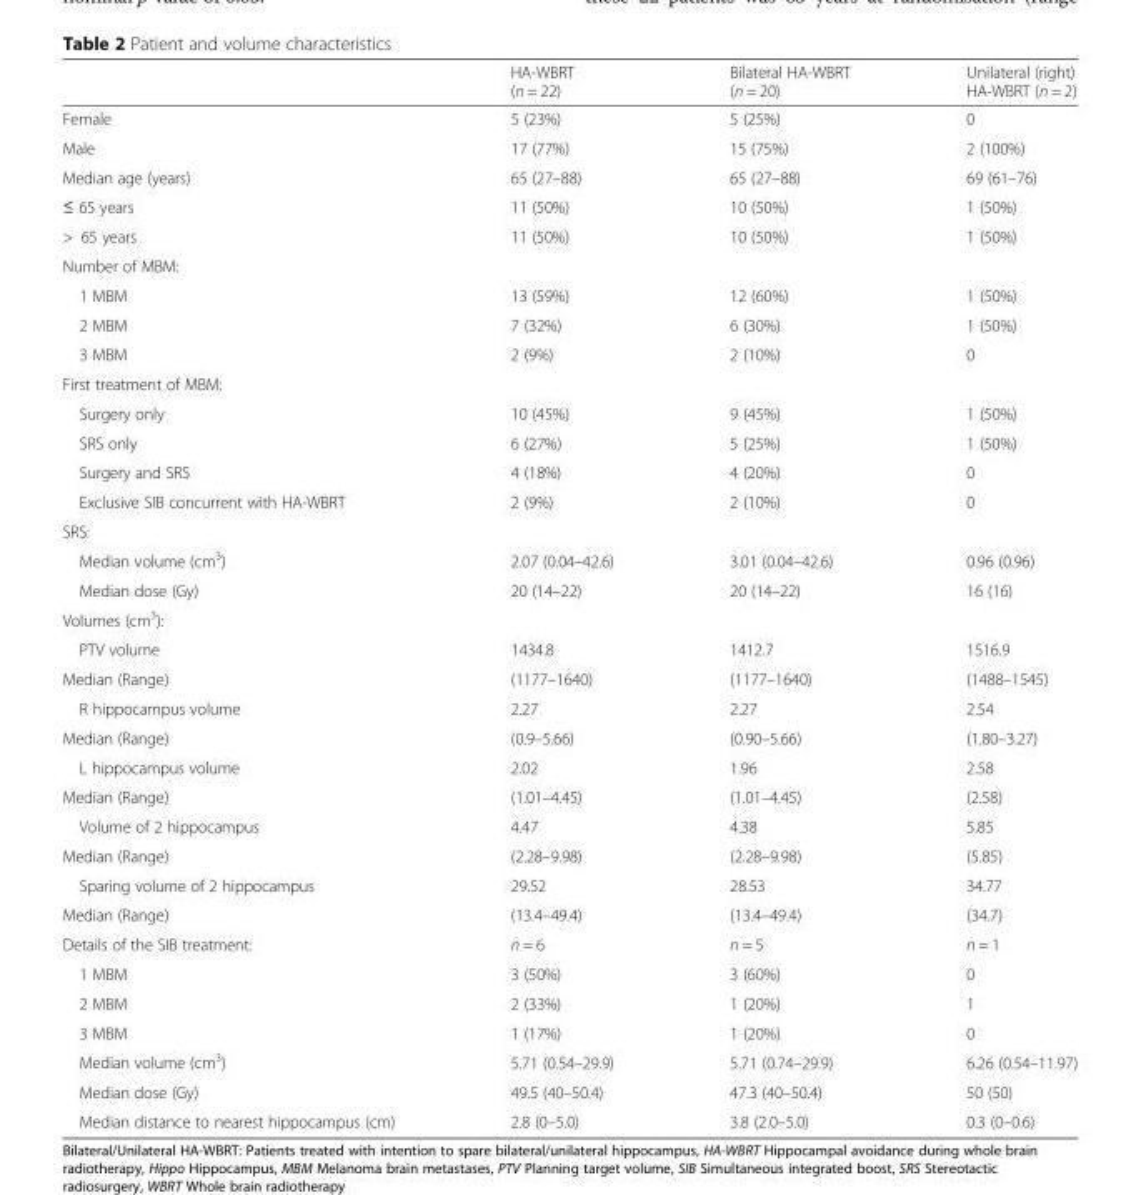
<table><thead><tr><td></td><td>HA-WBRT (n = 22)</td><td>Bilateral HA-WBRT (n = 20)</td><td>Unilateral (right) HA-WBRT (n = 2)</td></tr></thead><tbody><tr><td>Female</td><td>5 (23%)</td><td>5 (25%)</td><td>0</td></tr><tr><td>Male</td><td>17 (77%)</td><td>15 (75%)</td><td>2 (100%)</td></tr><tr><td>Median age (years)</td><td>65 (27–88)</td><td>65 (27–88)</td><td>69 (61–76)</td></tr><tr><td>≤ 65 years</td><td>11 (50%)</td><td>10 (50%)</td><td>1 (50%)</td></tr><tr><td>&gt; 65 years</td><td>11 (50%)</td><td>10 (50%)</td><td>1 (50%)</td></tr><tr><td colspan="4">Number of MBM:</td></tr><tr><td>1 MBM</td><td>13 (59%)</td><td>12 (60%)</td><td>1 (50%)</td></tr><tr><td>2 MBM</td><td>7 (32%)</td><td>6 (30%)</td><td>1 (50%)</td></tr><tr><td>3 MBM</td><td>2 (9%)</td><td>2 (10%)</td><td>0</td></tr><tr><td colspan="4">First treatment of MBM:</td></tr><tr><td>Surgery only</td><td>10 (45%)</td><td>9 (45%)</td><td>1 (50%)</td></tr><tr><td>SRS only</td><td>6 (27%)</td><td>5 (25%)</td><td>1 (50%)</td></tr><tr><td>Surgery and SRS</td><td>4 (18%)</td><td>4 (20%)</td><td>0</td></tr><tr><td>Exclusive SIB concurrent with HA-WBRT</td><td>2 (9%)</td><td>2 (10%)</td><td>0</td></tr><tr><td colspan="4">SRS:</td></tr><tr><td>Median volume (cm<sup>3</sup>)</td><td>2.07 (0.04–42.6)</td><td>3.01 (0.04–42.6)</td><td>0.96 (0.96)</td></tr><tr><td>Median dose (Gy)</td><td>20 (14–22)</td><td>20 (14–22)</td><td>16 (16)</td></tr><tr><td colspan="4">Volumes (cm<sup>3</sup>):</td></tr><tr><td>PTV volume</td><td>1434.8</td><td>1412.7</td><td>1516.9</td></tr><tr><td>Median (Range)</td><td>(1177–1640)</td><td>(1177–1640)</td><td>(1488–1545)</td></tr><tr><td>R hippocampus volume</td><td>2.27</td><td>2.27</td><td>2.54</td></tr><tr><td>Median (Range)</td><td>(0.9–5.66)</td><td>(0.90–5.66)</td><td>(1.80–3.27)</td></tr><tr><td>L hippocampus volume</td><td>2.02</td><td>1.96</td><td>2.58</td></tr><tr><td>Median (Range)</td><td>(1.01–4.45)</td><td>(1.01–4.45)</td><td>(2.58)</td></tr><tr><td>Volume of 2 hippocampus</td><td>4.47</td><td>4.38</td><td>5.85</td></tr><tr><td>Median (Range)</td><td>(2.28–9.98)</td><td>(2.28–9.98)</td><td>(5.85)</td></tr><tr><td>Sparing volume of 2 hippocampus</td><td>29.52</td><td>28.53</td><td>34.77</td></tr><tr><td>Median (Range)</td><td>(13.4–49.4)</td><td>(13.4–49.4)</td><td>(34.7)</td></tr><tr><td>Details of the SIB treatment:</td><td>n = 6</td><td>n = 5</td><td>n = 1</td></tr><tr><td>1 MBM</td><td>3 (50%)</td><td>3 (60%)</td><td>0</td></tr><tr><td>2 MBM</td><td>2 (33%)</td><td>1 (20%)</td><td>1</td></tr><tr><td>3 MBM</td><td>1 (17%)</td><td>1 (20%)</td><td>0</td></tr><tr><td>Median volume (cm<sup>3</sup>)</td><td>5.71 (0.54–29.9)</td><td>5.71 (0.74–29.9)</td><td>6.26 (0.54–11.97)</td></tr><tr><td>Median dose (Gy)</td><td>49.5 (40–50.4)</td><td>47.3 (40–50.4)</td><td>50 (50)</td></tr><tr><td>Median distance to nearest hippocampus (cm)</td><td>2.8 (0–5.0)</td><td>3.8 (2.0–5.0)</td><td>0.3 (0–0.6)</td></tr></tbody></table>